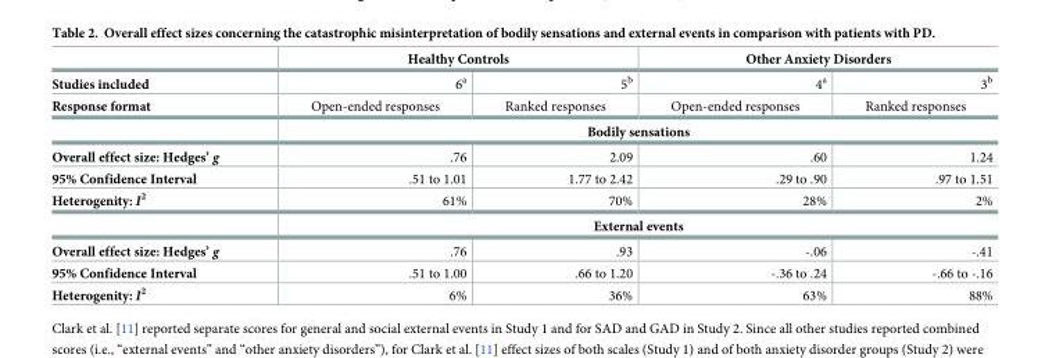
<table><thead><tr><td rowspan="2">Studies included</td><td colspan="2">Healthy Controls</td><td colspan="2">Other Anxiety Disorders</td></tr><tr><td>6<sup>a</sup></td><td>5<sup>b</sup></td><td>4<sup>a</sup></td><td>3<sup>b</sup></td></tr></thead><tbody><tr><td rowspan="2">Response format</td><td>Open-ended responses</td><td>Ranked responses</td><td>Open-ended responses</td><td>Ranked responses</td></tr><tr><td colspan="4">Bodily sensations</td></tr><tr><td>Overall effect size: Hedges’ g</td><td>.76</td><td>2.09</td><td>.60</td><td>1.24</td></tr><tr><td>95% Confidence Interval</td><td>.51 to 1.01</td><td>1.77 to 2.42</td><td>.29 to .90</td><td>.97 to 1.51</td></tr><tr><td rowspan="2">Heterogenity: I<sup>2</sup></td><td>61%</td><td>70%</td><td>28%</td><td>2%</td></tr><tr><td colspan="4">External events</td></tr><tr><td>Overall effect size: Hedges’ g</td><td>.76</td><td>.93</td><td>-.06</td><td>-.41</td></tr><tr><td>95% Confidence Interval</td><td>.51 to 1.00</td><td>.66 to 1.20</td><td>-.36 to .24</td><td>-.66 to -.16</td></tr><tr><td>Heterogenity: I<sup>2</sup></td><td>6%</td><td>36%</td><td>63%</td><td>88%</td></tr></tbody></table>